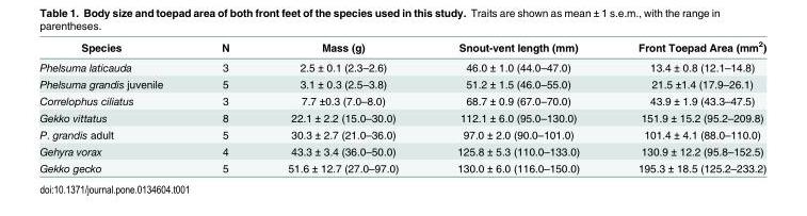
<table><thead><tr><td>Species</td><td>N</td><td>Mass (g)</td><td>Snout-vent length (mm)</td><td>Front Toepad Area (mm<sup>2</sup>)</td></tr></thead><tbody><tr><td>Phelsuma laticauda</td><td>3</td><td>2.5 ± 0.1 (2.3–2.6)</td><td>46.0 ± 1.0 (44.0–47.0)</td><td>13.4 ± 0.8 (12.1–14.8)</td></tr><tr><td>Phelsuma grandis juvenile</td><td>5</td><td>3.1 ± 0.3 (2.5–3.8)</td><td>51.2 ± 1.5 (46.0–55.0)</td><td>21.5 ±1.4 (17.9–26.1)</td></tr><tr><td>Correlophus ciliatus</td><td>3</td><td>7.7 ±0.3 (7.0–8.0)</td><td>68.7 ± 0.9 (67.0–70.0)</td><td>43.9 ± 1.9 (43.3–47.5)</td></tr><tr><td>Gekko vittatus</td><td>8</td><td>22.1 ± 2.2 (15.0–30.0)</td><td>112.1 ± 6.0 (95.0–130.0)</td><td>151.9 ± 15.2 (95.2–209.8)</td></tr><tr><td>P. grandis adult</td><td>5</td><td>30.3 ± 2.7 (21.0–36.0)</td><td>97.0 ± 2.0 (90.0–101.0)</td><td>101.4 ± 4.1 (88.0–110.0)</td></tr><tr><td>Gehyra vorax</td><td>4</td><td>43.3 ± 3.4 (36.0–50.0)</td><td>125.8 ± 5.3 (110.0–133.0)</td><td>130.9 ± 12.2 (95.8–152.5)</td></tr><tr><td>Gekko gecko</td><td>5</td><td>51.6 ± 12.7 (27.0–97.0)</td><td>130.0 ± 6.0 (116.0–150.0)</td><td>195.3 ± 18.5 (125.2–233.2)</td></tr></tbody></table>